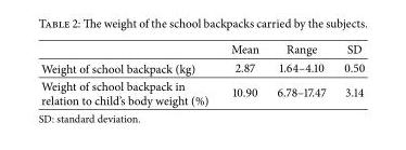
<table><thead><tr><td></td><td>Mean</td><td>Range</td><td>SD</td></tr></thead><tbody><tr><td>Weight of school backpack (kg)</td><td>2.87</td><td>1.64–4.10</td><td>0.50</td></tr><tr><td>Weight of school backpack in relation to child’s body weight (%)</td><td>10.90</td><td>6.78–17.47</td><td>3.14</td></tr></tbody></table>